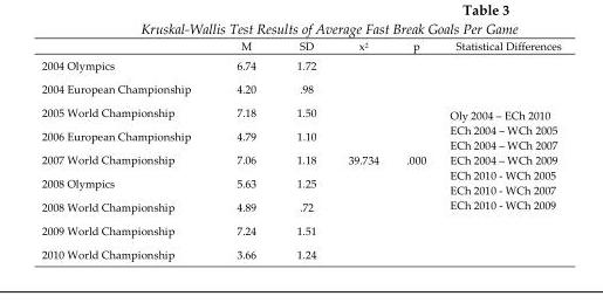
<table><thead><tr><td></td><td>M</td><td>SD</td><td>x<sup>2</sup></td><td>p</td><td>Statistical Differences</td></tr></thead><tbody><tr><td>2004 Olympics</td><td>6.74</td><td>1.72</td><td rowspan="9">39.734</td><td rowspan="9">.000</td><td rowspan="9">Oly 2004 – ECh 2010 ECh 2004 – WCh 2005 ECh 2004 – WCh 2007 ECh 2004 – WCh 2009 ECh 2010 - WCh 2005 ECh 2010 - WCh 2007 ECh 2010 - WCh 2009</td></tr><tr><td>2004 European Championship</td><td>4.20</td><td>.98</td></tr><tr><td>2005 World Championship</td><td>7.18</td><td>1.50</td></tr><tr><td>2006 European Championship</td><td>4.79</td><td>1.10</td></tr><tr><td>2007 World Championship</td><td>7.06</td><td>1.18</td></tr><tr><td>2008 Olympics</td><td>5.63</td><td>1.25</td></tr><tr><td>2008 World Championship</td><td>4.89</td><td>.72</td></tr><tr><td>2009 World Championship</td><td>7.24</td><td>1.51</td></tr><tr><td>2010 World Championship</td><td>3.66</td><td>1.24</td></tr></tbody></table>